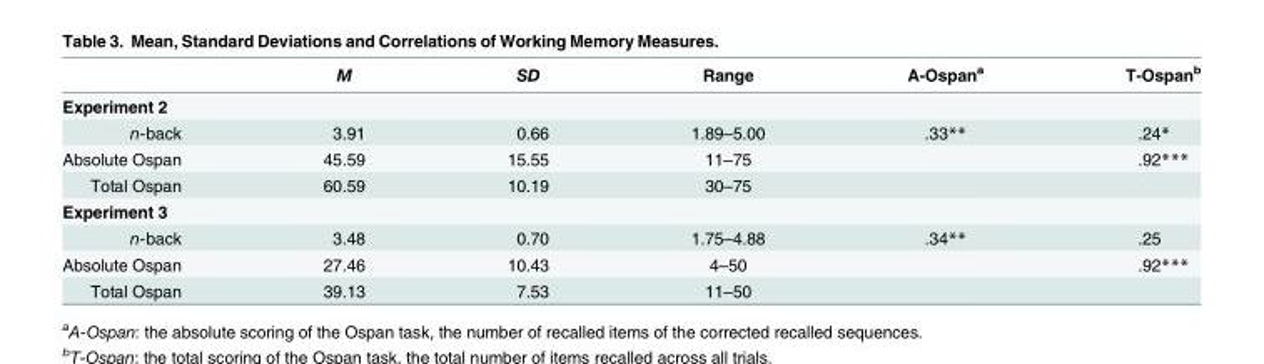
<table><thead><tr><td></td><td>M</td><td>SD</td><td>Range</td><td>A-Ospan<sup>a</sup></td><td>T-Ospan<sup>b</sup></td></tr></thead><tbody><tr><td colspan="6">Experiment 2</td></tr><tr><td>n-back</td><td>3.91</td><td>0.66</td><td>1.89–5.00</td><td>.33**</td><td>.24*</td></tr><tr><td>Absolute Ospan</td><td>45.59</td><td>15.55</td><td>11–75</td><td></td><td>.92***</td></tr><tr><td>Total Ospan</td><td>60.59</td><td>10.19</td><td>30–75</td><td></td><td></td></tr><tr><td colspan="6">Experiment 3</td></tr><tr><td>n-back</td><td>3.48</td><td>0.70</td><td>1.75–4.88</td><td>.34**</td><td>.25</td></tr><tr><td>Absolute Ospan</td><td>27.46</td><td>10.43</td><td>4–50</td><td></td><td>.92***</td></tr><tr><td>Total Ospan</td><td>39.13</td><td>7.53</td><td>11–50</td><td></td><td></td></tr></tbody></table>